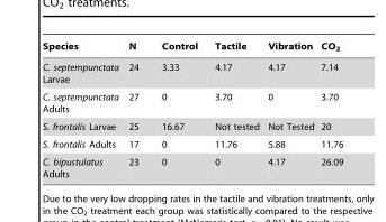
<table><thead><tr><td>Species</td><td>N</td><td>Control</td><td>Tactile</td><td>Vibration</td><td>CO<sub>2</sub></td></tr></thead><tbody><tr><td>C. septempunctata Larvae</td><td>24</td><td>3.33</td><td>4.17</td><td>4.17</td><td>7.14</td></tr><tr><td>C. septempunctata Adults</td><td>27</td><td>0</td><td>3.70</td><td>0</td><td>3.70</td></tr><tr><td>S. frontalis Larvae</td><td>25</td><td>16.67</td><td>Not tested</td><td>Not Tested</td><td>20</td></tr><tr><td>S. frontalis Adults</td><td>17</td><td>0</td><td>11.76</td><td>5.88</td><td>11.76</td></tr><tr><td>C. bipustulatus Adults</td><td>23</td><td>0</td><td>0</td><td>4.17</td><td>26.09</td></tr></tbody></table>